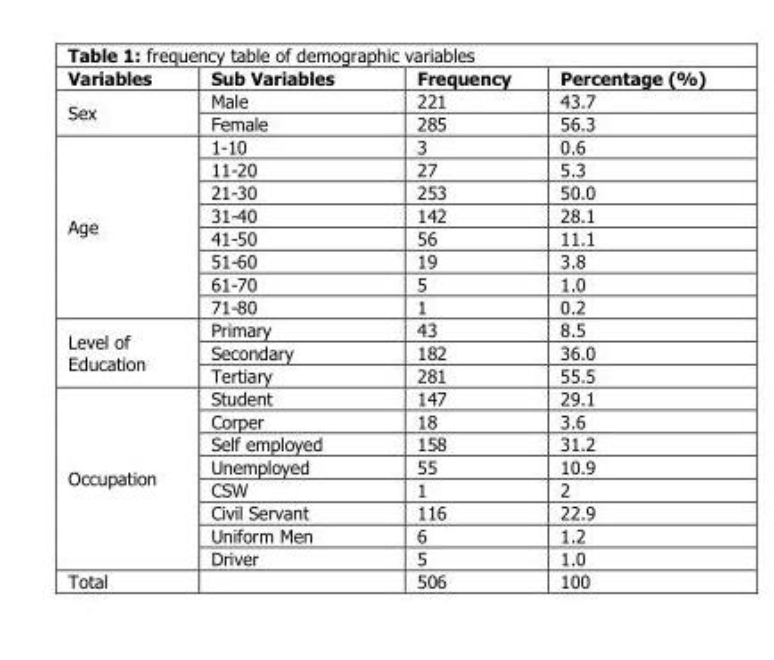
<table><thead><tr><td>Variables</td><td>Sub Variables</td><td>Frequency</td><td>Percentage (%)</td></tr></thead><tbody><tr><td rowspan="2">Sex</td><td>Male</td><td>221</td><td>43.7</td></tr><tr><td>Female</td><td>285</td><td>56.3</td></tr><tr><td rowspan="8">Age</td><td>1-10</td><td>3</td><td>0.6</td></tr><tr><td>11-20</td><td>27</td><td>5.3</td></tr><tr><td>21-30</td><td>253</td><td>50.0</td></tr><tr><td>31-40</td><td>142</td><td>28.1</td></tr><tr><td>41-50</td><td>56</td><td>11.1</td></tr><tr><td>51-60</td><td>19</td><td>3.8</td></tr><tr><td>61-70</td><td>5</td><td>1.0</td></tr><tr><td>71-80</td><td>1</td><td>0.2</td></tr><tr><td rowspan="3">Level of Education</td><td>Primary</td><td>43</td><td>8.5</td></tr><tr><td>Secondary</td><td>182</td><td>36.0</td></tr><tr><td>Tertiary</td><td>281</td><td>55.5</td></tr><tr><td rowspan="8">Occupation</td><td>Student</td><td>147</td><td>29.1</td></tr><tr><td>Corper</td><td>18</td><td>3.6</td></tr><tr><td>Self employed</td><td>158</td><td>31.2</td></tr><tr><td>Unemployed</td><td>55</td><td>10.9</td></tr><tr><td>CSW</td><td>1</td><td>2</td></tr><tr><td>Civil Servant</td><td>116</td><td>22.9</td></tr><tr><td>Uniform Men</td><td>6</td><td>1.2</td></tr><tr><td>Driver</td><td>5</td><td>1.0</td></tr><tr><td>Total</td><td></td><td>506</td><td>100</td></tr></tbody></table>